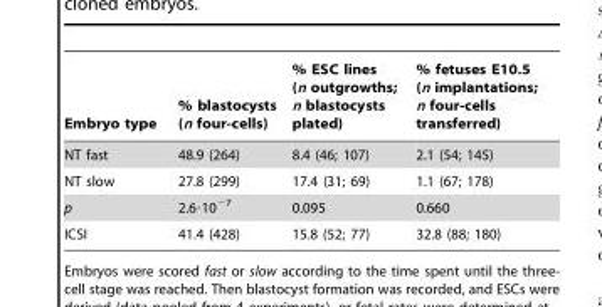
<table><thead><tr><td>Embryo type</td><td>% blastocysts (n four-cells)</td><td>% ESC lines (n outgrowths; n blastocysts plated)</td><td>% fetuses E10.5 (n implantations; n four-cells transferred)</td></tr></thead><tbody><tr><td>NT fast</td><td>48.9 (264)</td><td>8.4 (46; 107)</td><td>2.1 (54; 145)</td></tr><tr><td>NT slow</td><td>27.8 (299)</td><td>17.4 (31; 69)</td><td>1.1 (67; 178)</td></tr><tr><td>p</td><td>2.6·10<sup>−7</sup></td><td>0.095</td><td>0.660</td></tr><tr><td>ICSI</td><td>41.4 (428)</td><td>15.8 (52; 77)</td><td>32.8 (88; 180)</td></tr></tbody></table>